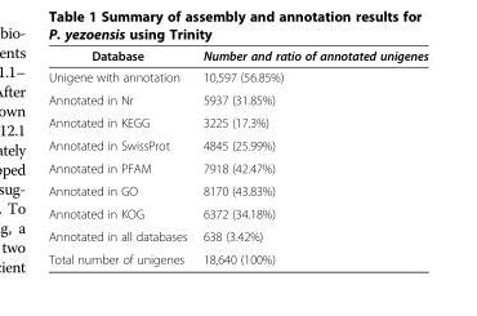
<table><thead><tr><td>Database</td><td>Number and ratio of annotated unigenes</td></tr></thead><tbody><tr><td>Unigene with annotation</td><td>10,597 (56.85%)</td></tr><tr><td>Annotated in Nr</td><td>5937 (31.85%)</td></tr><tr><td>Annotated in KEGG</td><td>3225 (17.3%)</td></tr><tr><td>Annotated in SwissProt</td><td>4845 (25.99%)</td></tr><tr><td>Annotated in PFAM</td><td>7918 (42.47%)</td></tr><tr><td>Annotated in GO</td><td>8170 (43.83%)</td></tr><tr><td>Annotated in KOG</td><td>6372 (34.18%)</td></tr><tr><td>Annotated in all databases</td><td>638 (3.42%)</td></tr><tr><td>Total number of unigenes</td><td>18,640 (100%)</td></tr></tbody></table>